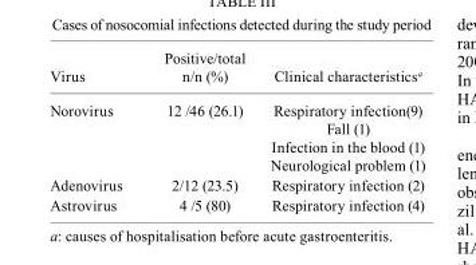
<table><thead><tr><td>Virus</td><td>Positive/total n/n (%)</td><td>Clinical characteristics<sup>a</sup></td></tr></thead><tbody><tr><td>Norovirus</td><td>12 /46 (26.1)</td><td>Respiratory infection(9) Fall (1) Infection in the blood (1) Neurological problem (1)</td></tr><tr><td>Adenovirus</td><td>2/12 (23.5)</td><td>Respiratory infection (2)</td></tr><tr><td>Astrovirus</td><td>4 /5 (80)</td><td>Respiratory infection (4)</td></tr></tbody></table>